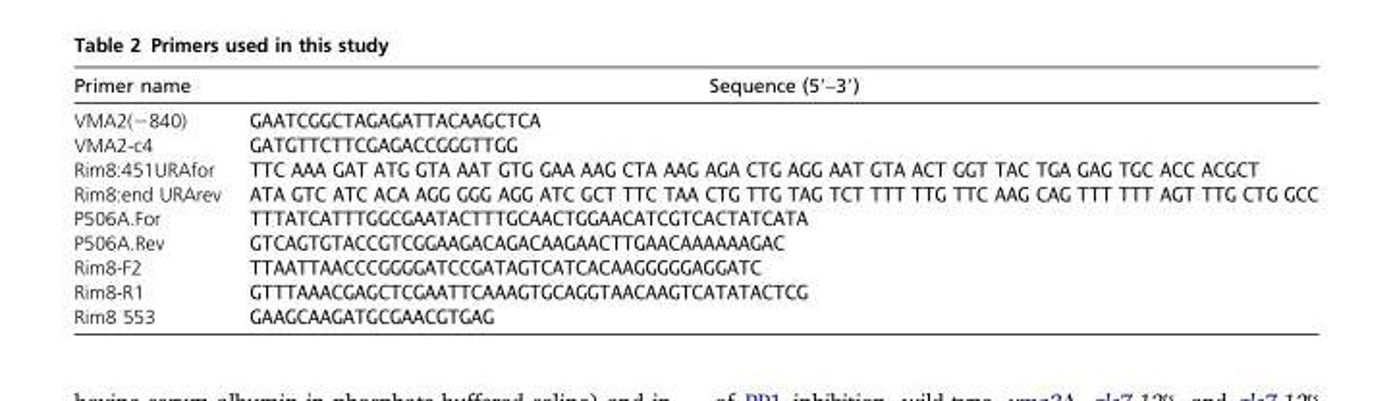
<table><thead><tr><td>Primer name</td><td>Sequence (5′–3′)</td></tr></thead><tbody><tr><td>VMA2(−840)</td><td>GAATCGGCTAGAGATTACAAGCTCA</td></tr><tr><td>VMA2-c4</td><td>GATGTTCTTCGAGACCGGGTTGG</td></tr><tr><td>Rim8:451URAfor</td><td>TTC AAA GAT ATG GTA AAT GTG GAA AAG CTA AAG AGA CTG AGG AAT GTA ACT GGT TAC TGA GAG TGC ACC ACGCT</td></tr><tr><td>Rim8:end URArev</td><td>ATA GTC ATC ACA AGG GGG AGG ATC GCT TTC TAA CTG TTG TAG TCT TTT TTG TTC AAG CAG TTT TTT AGT TTG CTG GCC</td></tr><tr><td>P506A.For</td><td>TTTATCATTTGGCGAATACTTTGCAACTGGAACATCGTCACTATCATA</td></tr><tr><td>P506A.Rev</td><td>GTCAGTGTACCGTCGGAAGACAGACAAGAACTTGAACAAAAAAGAC</td></tr><tr><td>Rim8-F2</td><td>TTAATTAACCCGGGGATCCGATAGTCATCACAAGGGGGAGGATC</td></tr><tr><td>Rim8-R1</td><td>GTTTAAACGAGCTCGAATTCAAAGTGCAGGTAACAAGTCATATACTCG</td></tr><tr><td>Rim8 553</td><td>GAAGCAAGATGCGAACGTGAG</td></tr></tbody></table>